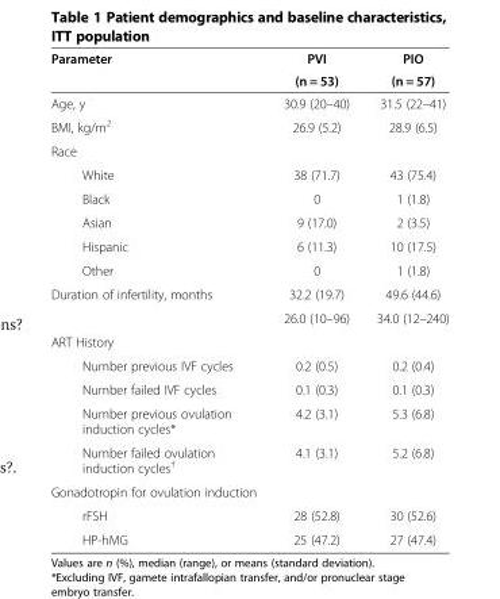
<table><thead><tr><td rowspan="2">Parameter</td><td rowspan="2">PVI (n = 53)</td><td rowspan="2">PIO (n = 57)</td></tr><tr></tr></thead><tbody><tr><td>Age, y</td><td>30.9 (20–40)</td><td>31.5 (22–41)</td></tr><tr><td>BMI, kg/m<sup>2</sup></td><td>26.9 (5.2)</td><td>28.9 (6.5)</td></tr><tr><td colspan="3">Race</td></tr><tr><td>White</td><td>38 (71.7)</td><td>43 (75.4)</td></tr><tr><td>Black</td><td>0</td><td>1 (1.8)</td></tr><tr><td>Asian</td><td>9 (17.0)</td><td>2 (3.5)</td></tr><tr><td>Hispanic</td><td>6 (11.3)</td><td>10 (17.5)</td></tr><tr><td>Other</td><td>0</td><td>1 (1.8)</td></tr><tr><td rowspan="2">Duration of infertility, months</td><td>32.2 (19.7)</td><td>49.6 (44.6)</td></tr><tr><td>26.0 (10–96)</td><td>34.0 (12–240)</td></tr><tr><td colspan="3">ART History</td></tr><tr><td>Number previous IVF cycles</td><td>0.2 (0.5)</td><td>0.2 (0.4)</td></tr><tr><td>Number failed IVF cycles</td><td>0.1 (0.3)</td><td>0.1 (0.3)</td></tr><tr><td>Number previous ovulation induction cycles*</td><td>4.2 (3.1)</td><td>5.3 (6.8)</td></tr><tr><td>Number failed ovulation induction cycles<sup>†</sup></td><td>4.1 (3.1)</td><td>5.2 (6.8)</td></tr><tr><td colspan="3">Gonadotropin for ovulation induction</td></tr><tr><td>rFSH</td><td>28 (52.8)</td><td>30 (52.6)</td></tr><tr><td>HP-hMG</td><td>25 (47.2)</td><td>27 (47.4)</td></tr></tbody></table>